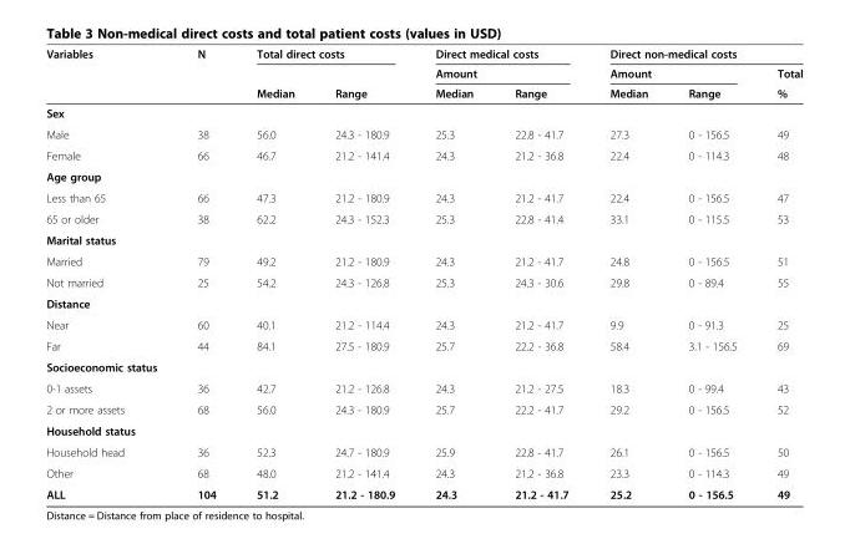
<table><thead><tr><td rowspan="3">Variables</td><td rowspan="3">N</td><td colspan="2">Total direct costs</td><td rowspan="2" colspan="2">Direct medical costs Amount</td><td colspan="3">Direct non-medical costs</td></tr><tr><td rowspan="2">Median</td><td rowspan="2">Range</td><td colspan="2">Amount</td><td rowspan="2">Total %</td></tr><tr><td>Median</td><td>Range</td><td>Median</td><td>Range</td></tr></thead><tbody><tr><td colspan="9">Sex</td></tr><tr><td>Male</td><td>38</td><td>56.0</td><td>24.3 - 180.9</td><td>25.3</td><td>22.8 - 41.7</td><td>27.3</td><td>0 - 156.5</td><td>49</td></tr><tr><td>Female</td><td>66</td><td>46.7</td><td>21.2 - 141.4</td><td>24.3</td><td>21.2 - 36.8</td><td>22.4</td><td>0 - 114.3</td><td>48</td></tr><tr><td colspan="9">Age group</td></tr><tr><td>Less than 65</td><td>66</td><td>47.3</td><td>21.2 - 180.9</td><td>24.3</td><td>21.2 - 41.7</td><td>22.4</td><td>0 - 156.5</td><td>47</td></tr><tr><td>65 or older</td><td>38</td><td>62.2</td><td>24.3 - 152.3</td><td>25.3</td><td>22.8 - 41.4</td><td>33.1</td><td>0 - 115.5</td><td>53</td></tr><tr><td colspan="9">Marital status</td></tr><tr><td>Married</td><td>79</td><td>49.2</td><td>21.2 - 180.9</td><td>24.3</td><td>21.2 - 41.7</td><td>24.8</td><td>0 - 156.5</td><td>51</td></tr><tr><td>Not married</td><td>25</td><td>54.2</td><td>24.3 - 126.8</td><td>25.3</td><td>24.3 - 30.6</td><td>29.8</td><td>0 - 89.4</td><td>55</td></tr><tr><td colspan="9">Distance</td></tr><tr><td>Near</td><td>60</td><td>40.1</td><td>21.2 - 114.4</td><td>24.3</td><td>21.2 - 41.7</td><td>9.9</td><td>0 - 91.3</td><td>25</td></tr><tr><td>Far</td><td>44</td><td>84.1</td><td>27.5 - 180.9</td><td>25.7</td><td>22.2 - 36.8</td><td>58.4</td><td>3.1 - 156.5</td><td>69</td></tr><tr><td colspan="9">Socioeconomic status</td></tr><tr><td>0-1 assets</td><td>36</td><td>42.7</td><td>21.2 - 126.8</td><td>24.3</td><td>21.2 - 27.5</td><td>18.3</td><td>0 - 99.4</td><td>43</td></tr><tr><td>2 or more assets</td><td>68</td><td>56.0</td><td>24.3 - 180.9</td><td>25.7</td><td>22.2 - 41.7</td><td>29.2</td><td>0 - 156.5</td><td>52</td></tr><tr><td colspan="9">Household status</td></tr><tr><td>Household head</td><td>36</td><td>52.3</td><td>24.7 - 180.9</td><td>25.9</td><td>22.8 - 41.7</td><td>26.1</td><td>0 - 156.5</td><td>50</td></tr><tr><td>Other</td><td>68</td><td>48.0</td><td>21.2 - 141.4</td><td>24.3</td><td>21.2 - 36.8</td><td>23.3</td><td>0 - 114.3</td><td>49</td></tr><tr><td>ALL</td><td>104</td><td>51.2</td><td>21.2 - 180.9</td><td>24.3</td><td>21.2 - 41.7</td><td>25.2</td><td>0 - 156.5</td><td>49</td></tr></tbody></table>